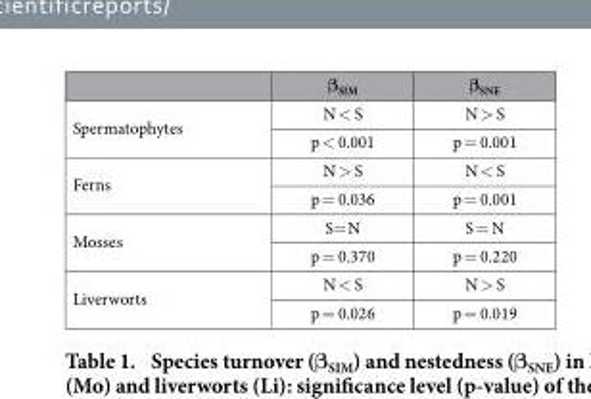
<table><thead><tr><td></td><td>β<sub>SIM</sub></td><td>β<sub>SNE</sub></td></tr></thead><tbody><tr><td rowspan="2">Spermatophytes</td><td>N &lt; S</td><td>N &gt; S</td></tr><tr><td>p &lt; 0.001</td><td>p = 0.001</td></tr><tr><td rowspan="2">Ferns</td><td>N &gt; S</td><td>N &lt; S</td></tr><tr><td>p = 0.036</td><td>p = 0.001</td></tr><tr><td rowspan="2">Mosses</td><td>S= N</td><td>S = N</td></tr><tr><td>p = 0.370</td><td>p = 0.220</td></tr><tr><td rowspan="2">Liverworts</td><td>N &lt; S</td><td>N &gt; S</td></tr><tr><td>p = 0.026</td><td>p = 0.019</td></tr></tbody></table>